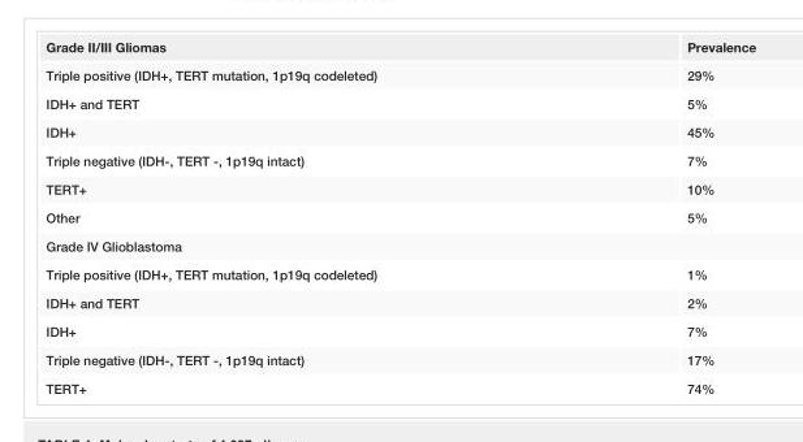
<table><tbody><tr><td>Grade II/III Gliomas</td><td>Prevalence</td></tr><tr><td>Triple positive (IDH+, TERT mutation, 1p19q codeleted)</td><td>29%</td></tr><tr><td>IDH+ and TERT</td><td>5%</td></tr><tr><td>IDH+</td><td>45%</td></tr><tr><td>Triple negative (IDH-, TERT -, 1p19q intact)</td><td>7%</td></tr><tr><td>TERT+</td><td>10%</td></tr><tr><td>Other</td><td>5%</td></tr><tr><td colspan="2">Grade IV Glioblastoma</td></tr><tr><td>Triple positive (IDH+, TERT mutation, 1p19q codeleted)</td><td>1%</td></tr><tr><td>IDH+ and TERT</td><td>2%</td></tr><tr><td>IDH+</td><td>7%</td></tr><tr><td>Triple negative (IDH-, TERT -, 1p19q intact)</td><td>17%</td></tr><tr><td>TERT+</td><td>74%</td></tr></tbody></table>